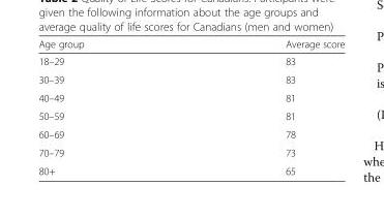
<table><thead><tr><td>Age group</td><td>Average score</td></tr></thead><tbody><tr><td>18–29</td><td>83</td></tr><tr><td>30–39</td><td>83</td></tr><tr><td>40–49</td><td>81</td></tr><tr><td>50–59</td><td>81</td></tr><tr><td>60–69</td><td>78</td></tr><tr><td>70–79</td><td>73</td></tr><tr><td>80+</td><td>65</td></tr></tbody></table>